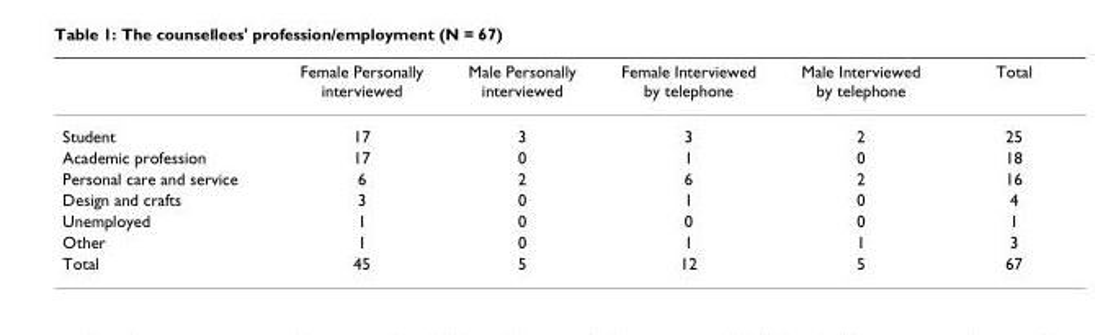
<table><thead><tr><td></td><td>Female Personally interviewed</td><td>Male Personally interviewed</td><td>Female Interviewed by telephone</td><td>Male Interviewed by telephone</td><td>Total</td></tr></thead><tbody><tr><td>Student</td><td>17</td><td>3</td><td>3</td><td>2</td><td>25</td></tr><tr><td>Academic profession</td><td>17</td><td>0</td><td>1</td><td>0</td><td>18</td></tr><tr><td>Personal care and service</td><td>6</td><td>2</td><td>6</td><td>2</td><td>16</td></tr><tr><td>Design and crafts</td><td>3</td><td>0</td><td>1</td><td>0</td><td>4</td></tr><tr><td>Unemployed</td><td>1</td><td>0</td><td>0</td><td>0</td><td>1</td></tr><tr><td>Other</td><td>1</td><td>0</td><td>1</td><td>1</td><td>3</td></tr><tr><td>Total</td><td>45</td><td>5</td><td>12</td><td>5</td><td>67</td></tr></tbody></table>